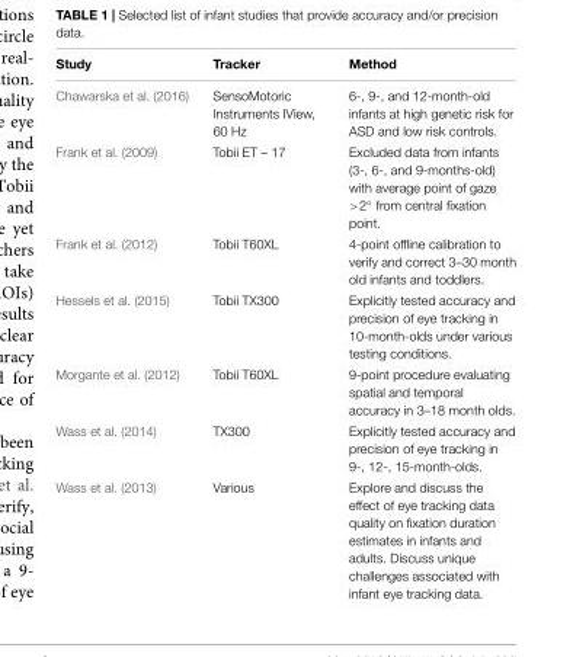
<table><thead><tr><td>Study</td><td>Tracker</td><td>Method</td></tr></thead><tbody><tr><td>Chawarska et al. (2016)</td><td>SensoMotoric Instruments IView, 60 Hz</td><td>6-, 9-, and 12-month-old infants at high genetic risk for ASD and low risk controls.</td></tr><tr><td>Frank et al. (2009)</td><td>Tobii ET – 17</td><td>Excluded data from infants (3-, 6-, and 9-months-old) with average point of gaze &gt;2◦ from central fixation point.</td></tr><tr><td>Frank et al. (2012)</td><td>Tobii T60XL</td><td>4-point offline calibration to verify and correct 3–30 month old infants and toddlers.</td></tr><tr><td>Hessels et al. (2015)</td><td>Tobii TX300</td><td>Explicitly tested accuracy and precision of eye tracking in 10-month-olds under various testing conditions.</td></tr><tr><td>Morgante et al. (2012)</td><td>Tobii T60XL</td><td>9-point procedure evaluating spatial and temporal accuracy in 3–18 month olds.</td></tr><tr><td>Wass et al. (2014)</td><td>TX300</td><td>Explicitly tested accuracy and precision of eye tracking in 9-, 12-, 15-month-olds.</td></tr><tr><td>Wass et al. (2013)</td><td>Various</td><td>Explore and discuss the effect of eye tracking data quality on fixation duration estimates in infants and adults. Discuss unique challenges associated with infant eye tracking data.</td></tr></tbody></table>